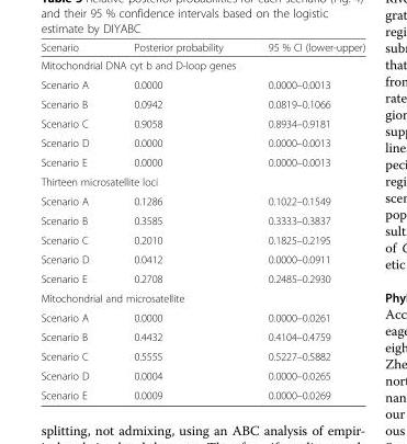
<table><thead><tr><td>Scenario</td><td>Posterior probability</td><td>95 % CI (lower-upper)</td></tr></thead><tbody><tr><td colspan="3">Mitochondrial DNA cyt b and D-loop genes</td></tr><tr><td>Scenario A</td><td>0.0000</td><td>0.0000–0.0013</td></tr><tr><td>Scenario B</td><td>0.0942</td><td>0.0819–0.1066</td></tr><tr><td>Scenario C</td><td>0.9058</td><td>0.8934–0.9181</td></tr><tr><td>Scenario D</td><td>0.0000</td><td>0.0000–0.0013</td></tr><tr><td>Scenario E</td><td>0.0000</td><td>0.0000–0.0013</td></tr><tr><td colspan="3">Thirteen microsatellite loci</td></tr><tr><td>Scenario A</td><td>0.1286</td><td>0.1022–0.1549</td></tr><tr><td>Scenario B</td><td>0.3585</td><td>0.3333–0.3837</td></tr><tr><td>Scenario C</td><td>0.2010</td><td>0.1825–0.2195</td></tr><tr><td>Scenario D</td><td>0.0412</td><td>0.0000–0.0911</td></tr><tr><td>Scenario E</td><td>0.2708</td><td>0.2485–0.2930</td></tr><tr><td colspan="3">Mitochondrial and microsatellite</td></tr><tr><td>Scenario A</td><td>0.0000</td><td>0.0000–0.0261</td></tr><tr><td>Scenario B</td><td>0.4432</td><td>0.4104–0.4759</td></tr><tr><td>Scenario C</td><td>0.5555</td><td>0.5227–0.5882</td></tr><tr><td>Scenario D</td><td>0.0004</td><td>0.0000–0.0265</td></tr><tr><td>Scenario E</td><td>0.0009</td><td>0.0000–0.0269</td></tr></tbody></table>